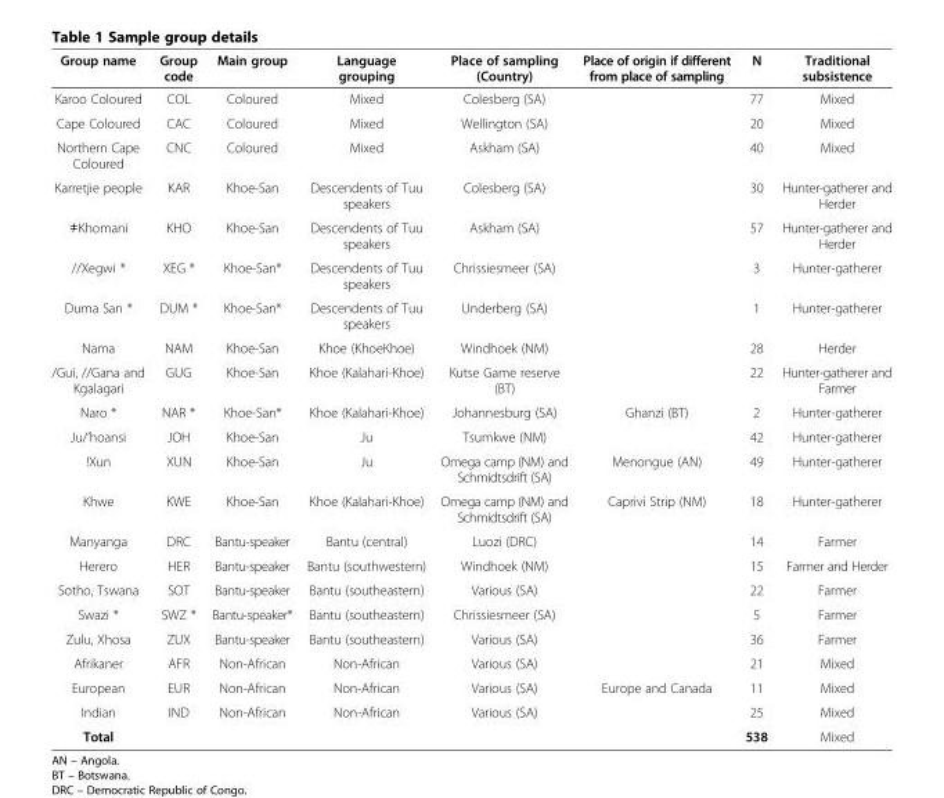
<table><thead><tr><td>Group name</td><td>Group code</td><td>Main group</td><td>Language grouping</td><td>Place of sampling (Country)</td><td>Place of origin if different from place of sampling</td><td>N</td><td>Traditional subsistence</td></tr></thead><tbody><tr><td>Karoo Coloured</td><td>COL</td><td>Coloured</td><td>Mixed</td><td>Colesberg (SA)</td><td></td><td>77</td><td>Mixed</td></tr><tr><td>Cape Coloured</td><td>CAC</td><td>Coloured</td><td>Mixed</td><td>Wellington (SA)</td><td></td><td>20</td><td>Mixed</td></tr><tr><td>Northern Cape Coloured</td><td>CNC</td><td>Coloured</td><td>Mixed</td><td>Askham (SA)</td><td></td><td>40</td><td>Mixed</td></tr><tr><td>Karretjie people</td><td>KAR</td><td>Khoe-San</td><td>Descendents of Tuu speakers</td><td>Colesberg (SA)</td><td></td><td>30</td><td>Hunter-gatherer and Herder</td></tr><tr><td>≠Khomani</td><td>KHO</td><td>Khoe-San</td><td>Descendents of Tuu speakers</td><td>Askham (SA)</td><td></td><td>57</td><td>Hunter-gatherer and Herder</td></tr><tr><td>//Xegwi *</td><td>XEG *</td><td>Khoe-San*</td><td>Descendents of Tuu speakers</td><td>Chrissiesmeer (SA)</td><td></td><td>3</td><td>Hunter-gatherer</td></tr><tr><td>Duma San *</td><td>DUM *</td><td>Khoe-San*</td><td>Descendents of Tuu speakers</td><td>Underberg (SA)</td><td></td><td>1</td><td>Hunter-gatherer</td></tr><tr><td>Nama</td><td>NAM</td><td>Khoe-San</td><td>Khoe (KhoeKhoe)</td><td>Windhoek (NM)</td><td></td><td>28</td><td>Herder</td></tr><tr><td>/Gui, //Gana and Kgalagari</td><td>GUG</td><td>Khoe-San</td><td>Khoe (Kalahari-Khoe)</td><td>Kutse Game reserve (BT)</td><td></td><td>22</td><td>Hunter-gatherer and Farmer</td></tr><tr><td>Naro *</td><td>NAR *</td><td>Khoe-San*</td><td>Khoe (Kalahari-Khoe)</td><td>Johannesburg (SA)</td><td>Ghanzi (BT)</td><td>2</td><td>Hunter-gatherer</td></tr><tr><td>Ju/’hoansi</td><td>JOH</td><td>Khoe-San</td><td>Ju</td><td>Tsumkwe (NM)</td><td></td><td>42</td><td>Hunter-gatherer</td></tr><tr><td>!Xun</td><td>XUN</td><td>Khoe-San</td><td>Ju</td><td>Omega camp (NM) and Schmidtsdrift (SA)</td><td>Menongue (AN)</td><td>49</td><td>Hunter-gatherer</td></tr><tr><td>Khwe</td><td>KWE</td><td>Khoe-San</td><td>Khoe (Kalahari-Khoe)</td><td>Omega camp (NM) and Schmidtsdrift (SA)</td><td>Caprivi Strip (NM)</td><td>18</td><td>Hunter-gatherer</td></tr><tr><td>Manyanga</td><td>DRC</td><td>Bantu-speaker</td><td>Bantu (central)</td><td>Luozi (DRC)</td><td></td><td>14</td><td>Farmer</td></tr><tr><td>Herero</td><td>HER</td><td>Bantu-speaker</td><td>Bantu (southwestern)</td><td>Windhoek (NM)</td><td></td><td>15</td><td>Farmer and Herder</td></tr><tr><td>Sotho, Tswana</td><td>SOT</td><td>Bantu-speaker</td><td>Bantu (southeastern)</td><td>Various (SA)</td><td></td><td>22</td><td>Farmer</td></tr><tr><td>Swazi *</td><td>SWZ *</td><td>Bantu-speaker*</td><td>Bantu (southeastern)</td><td>Chrissiesmeer (SA)</td><td></td><td>5</td><td>Farmer</td></tr><tr><td>Zulu, Xhosa</td><td>ZUX</td><td>Bantu-speaker</td><td>Bantu (southeastern)</td><td>Various (SA)</td><td></td><td>36</td><td>Farmer</td></tr><tr><td>Afrikaner</td><td>AFR</td><td>Non-African</td><td>Non-African</td><td>Various (SA)</td><td></td><td>21</td><td>Mixed</td></tr><tr><td>European</td><td>EUR</td><td>Non-African</td><td>Non-African</td><td>Various (SA)</td><td>Europe and Canada</td><td>11</td><td>Mixed</td></tr><tr><td>Indian</td><td>IND</td><td>Non-African</td><td>Non-African</td><td>Various (SA)</td><td></td><td>25</td><td>Mixed</td></tr><tr><td>Total</td><td></td><td></td><td></td><td></td><td></td><td>538</td><td>Mixed</td></tr></tbody></table>